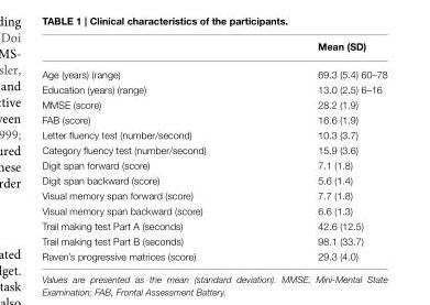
<table><thead><tr><td></td><td>Mean (SD)</td></tr></thead><tbody><tr><td>Age (years) (range)</td><td>69.3 (5.4) 60–78</td></tr><tr><td>Education (years) (range)</td><td>13.0 (2.5) 6–16</td></tr><tr><td>MMSE (score)</td><td>28.2 (1.9)</td></tr><tr><td>FAB (score)</td><td>16.6 (1.9)</td></tr><tr><td>Letter fluency test (number/second)</td><td>10.3 (3.7)</td></tr><tr><td>Category fluency test (number/second)</td><td>15.9 (3.6)</td></tr><tr><td>Digit span forward (score)</td><td>7.1 (1.8)</td></tr><tr><td>Digit span backward (score)</td><td>5.6 (1.4)</td></tr><tr><td>Visual memory span forward (score)</td><td>7.7 (1.8)</td></tr><tr><td>Visual memory span backward (score)</td><td>6.6 (1.3)</td></tr><tr><td>Trail making test Part A (seconds)</td><td>42.6 (12.5)</td></tr><tr><td>Trail making test Part B (seconds)</td><td>98.1 (33.7)</td></tr><tr><td>Raven’s progressive matrices (score)</td><td>29.3 (4.0)</td></tr></tbody></table>